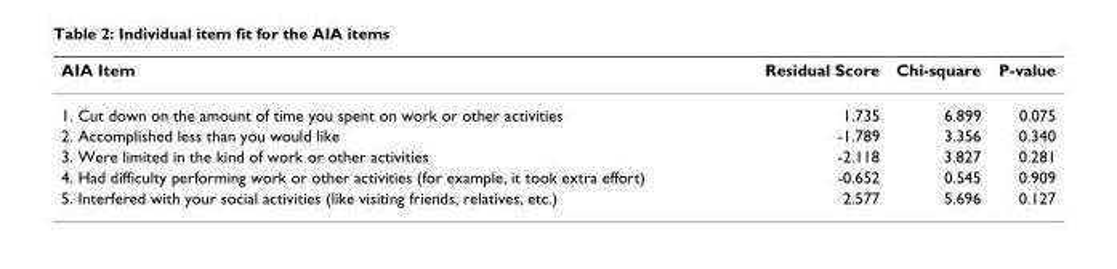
<table><thead><tr><td>AIA Item</td><td>Residual Score</td><td>Chi-square</td><td>P-value</td></tr></thead><tbody><tr><td>1. Cut down on the amount of time you spent on work or other activities</td><td>1.735</td><td>6.899</td><td>0.075</td></tr><tr><td>2. Accomplished less than you would like</td><td>-1.789</td><td>3.356</td><td>0.340</td></tr><tr><td>3. Were limited in the kind of work or other activities</td><td>-2.118</td><td>3.827</td><td>0.281</td></tr><tr><td>4. Had difficulty performing work or other activities (for example, it took extra effort)</td><td>-0.652</td><td>0.545</td><td>0.909</td></tr><tr><td>5. Interfered with your social activities (like visiting friends, relatives, etc.)</td><td>2.577</td><td>5.696</td><td>0.127</td></tr></tbody></table>